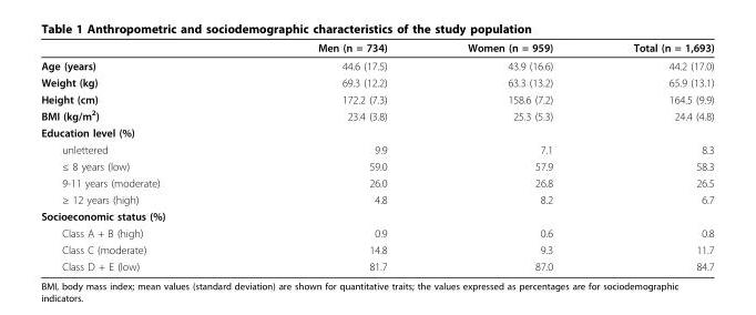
<table><thead><tr><td></td><td>Men (n = 734)</td><td>Women (n = 959)</td><td>Total (n = 1,693)</td></tr></thead><tbody><tr><td>Age (years)</td><td>44.6 (17.5)</td><td>43.9 (16.6)</td><td>44.2 (17.0)</td></tr><tr><td>Weight (kg)</td><td>69.3 (12.2)</td><td>63.3 (13.2)</td><td>65.9 (13.1)</td></tr><tr><td>Height (cm)</td><td>172.2 (7.3)</td><td>158.6 (7.2)</td><td>164.5 (9.9)</td></tr><tr><td>BMI (kg/m<sup>2</sup>)</td><td>23.4 (3.8)</td><td>25.3 (5.3)</td><td>24.4 (4.8)</td></tr><tr><td colspan="4">Education level (%)</td></tr><tr><td>unlettered</td><td>9.9</td><td>7.1</td><td>8.3</td></tr><tr><td>≤ 8 years (low)</td><td>59.0</td><td>57.9</td><td>58.3</td></tr><tr><td>9-11 years (moderate)</td><td>26.0</td><td>26.8</td><td>26.5</td></tr><tr><td>≥ 12 years (high)</td><td>4.8</td><td>8.2</td><td>6.7</td></tr><tr><td colspan="4">Socioeconomic status (%)</td></tr><tr><td>Class A + B (high)</td><td>0.9</td><td>0.6</td><td>0.8</td></tr><tr><td>Class C (moderate)</td><td>14.8</td><td>9.3</td><td>11.7</td></tr><tr><td>Class D + E (low)</td><td>81.7</td><td>87.0</td><td>84.7</td></tr></tbody></table>